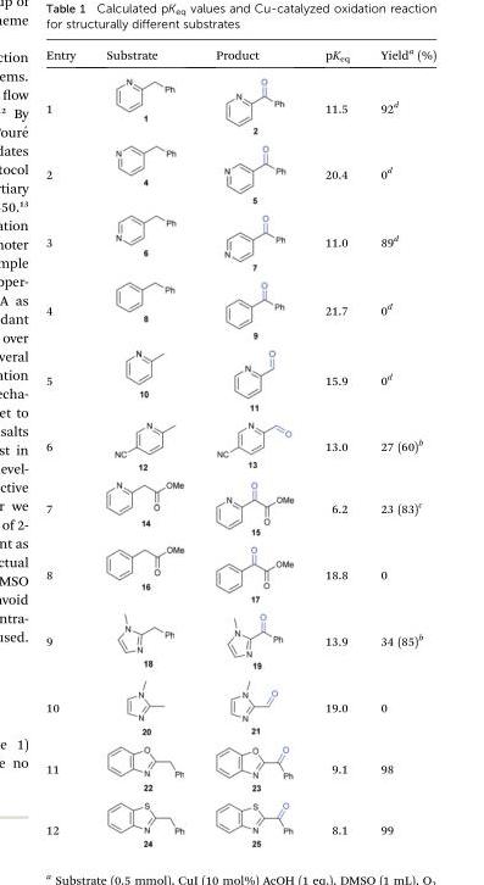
<table><thead><tr><td>Entry</td><td>Substrate</td><td>Product</td><td>pK<sub>eq</sub></td><td>Yield<sup>a</sup> (%)</td></tr></thead><tbody><tr><td>1</td><td></td><td></td><td>11.5</td><td>92<sup>d</sup></td></tr><tr><td>2</td><td></td><td></td><td>20.4</td><td>0<sup>d</sup></td></tr><tr><td>3</td><td></td><td></td><td>11.0</td><td>89<sup>d</sup></td></tr><tr><td>4</td><td></td><td></td><td>21.7</td><td>0<sup>d</sup></td></tr><tr><td>5</td><td></td><td></td><td>15.9</td><td>0<sup>d</sup></td></tr><tr><td>6</td><td></td><td></td><td>13.0</td><td>27 (60)<sup>b</sup></td></tr><tr><td>7</td><td></td><td></td><td>6.2</td><td>23 (83)<sup>c</sup></td></tr><tr><td>8</td><td></td><td></td><td>18.8</td><td>0</td></tr><tr><td>9</td><td></td><td></td><td>13.9</td><td>34 (85)<sup>b</sup></td></tr><tr><td>10</td><td></td><td></td><td>19.0</td><td>0</td></tr><tr><td>11</td><td></td><td></td><td>9.1</td><td>98</td></tr><tr><td>12</td><td></td><td></td><td>8.1</td><td>99</td></tr></tbody></table>